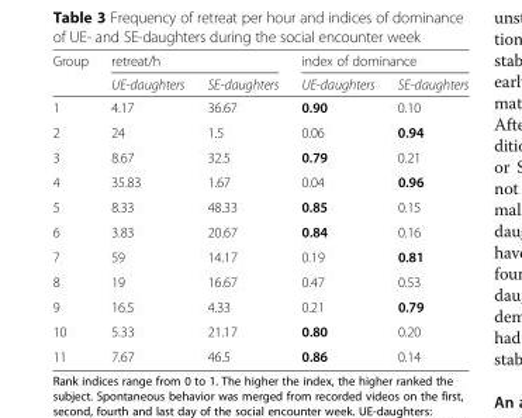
<table><thead><tr><td rowspan="2">Group</td><td colspan="2">retreat/h</td><td colspan="2">index of dominance</td></tr><tr><td>UE-daughters</td><td>SE-daughters</td><td>UE-daughters</td><td>SE-daughters</td></tr></thead><tbody><tr><td>1</td><td>4.17</td><td>36.67</td><td>0.90</td><td>0.10</td></tr><tr><td>2</td><td>24</td><td>1.5</td><td>0.06</td><td>0.94</td></tr><tr><td>3</td><td>8.67</td><td>32.5</td><td>0.79</td><td>0.21</td></tr><tr><td>4</td><td>35.83</td><td>1.67</td><td>0.04</td><td>0.96</td></tr><tr><td>5</td><td>8.33</td><td>48.33</td><td>0.85</td><td>0.15</td></tr><tr><td>6</td><td>3.83</td><td>20.67</td><td>0.84</td><td>0.16</td></tr><tr><td>7</td><td>59</td><td>14.17</td><td>0.19</td><td>0.81</td></tr><tr><td>8</td><td>19</td><td>16.67</td><td>0.47</td><td>0.53</td></tr><tr><td>9</td><td>16.5</td><td>4.33</td><td>0.21</td><td>0.79</td></tr><tr><td>10</td><td>5.33</td><td>21.17</td><td>0.80</td><td>0.20</td></tr><tr><td>11</td><td>7.67</td><td>46.5</td><td>0.86</td><td>0.14</td></tr></tbody></table>